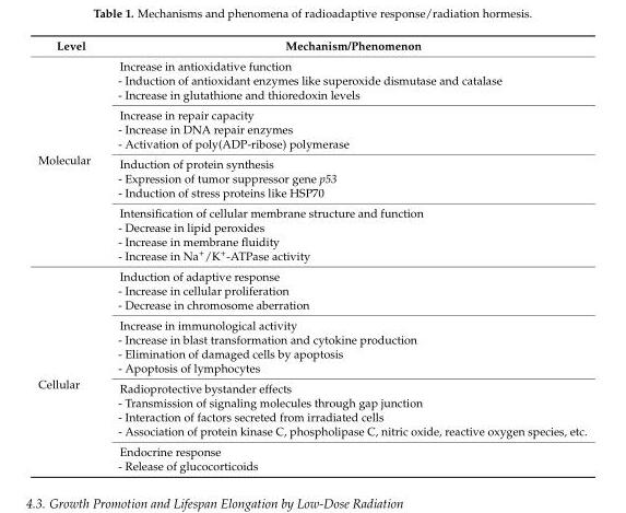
<table><thead><tr><td>Level</td><td>Mechanism/Phenomenon</td></tr></thead><tbody><tr><td rowspan="4">Molecular</td><td>Increase in antioxidative function - Induction of antioxidant enzymes like superoxide dismutase and catalase - Increase in glutathione and thioredoxin levels</td></tr><tr><td>Increase in repair capacity - Increase in DNA repair enzymes - Activation of poly(ADP-ribose) polymerase</td></tr><tr><td>Induction of protein synthesis - Expression of tumor suppressor gene p53 - Induction of stress proteins like HSP70</td></tr><tr><td>Intensification of cellular membrane structure and function - Decrease in lipid peroxides - Increase in membrane fluidity - Increase in Na<sup>+</sup>/K<sup>+</sup>-ATPase activity</td></tr><tr><td rowspan="4">Cellular</td><td>Induction of adaptive response - Increase in cellular proliferation - Decrease in chromosome aberration</td></tr><tr><td>Increase in immunological activity - Increase in blast transformation and cytokine production - Elimination of damaged cells by apoptosis - Apoptosis of lymphocytes</td></tr><tr><td>Radioprotective bystander effects - Transmission of signaling molecules through gap junction - Interaction of factors secreted from irradiated cells - Association of protein kinase C, phospholipase C, nitric oxide, reactive oxygen species, etc.</td></tr><tr><td>Endocrine response - Release of glucocorticoids</td></tr></tbody></table>